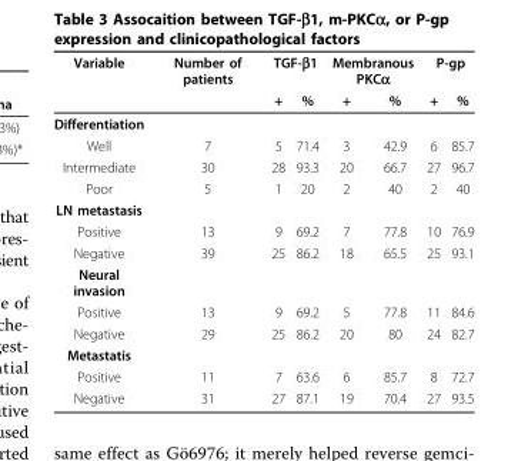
<table><thead><tr><td rowspan="2">Variable</td><td rowspan="2">Number of patients</td><td colspan="2">TGF-β1</td><td colspan="2">Membranous PKCα</td><td colspan="2">P-gp</td></tr><tr><td>+</td><td>%</td><td>+</td><td>%</td><td>+</td><td>%</td></tr></thead><tbody><tr><td colspan="8">Differentiation</td></tr><tr><td>Well</td><td>7</td><td>5</td><td>71.4</td><td>3</td><td>42.9</td><td>6</td><td>85.7</td></tr><tr><td>Intermediate</td><td>30</td><td>28</td><td>93.3</td><td>20</td><td>66.7</td><td>27</td><td>96.7</td></tr><tr><td>Poor</td><td>5</td><td>1</td><td>20</td><td>2</td><td>40</td><td>2</td><td>40</td></tr><tr><td colspan="8">LN metastasis</td></tr><tr><td>Positive</td><td>13</td><td>9</td><td>69.2</td><td>7</td><td>77.8</td><td>10</td><td>76.9</td></tr><tr><td>Negative</td><td>39</td><td>25</td><td>86.2</td><td>18</td><td>65.5</td><td>25</td><td>93.1</td></tr><tr><td colspan="8">Neural invasion</td></tr><tr><td>Positive</td><td>13</td><td>9</td><td>69.2</td><td>5</td><td>77.8</td><td>11</td><td>84.6</td></tr><tr><td>Negative</td><td>29</td><td>25</td><td>86.2</td><td>20</td><td>80</td><td>24</td><td>82.7</td></tr><tr><td colspan="8">Metastatis</td></tr><tr><td>Positive</td><td>11</td><td>7</td><td>63.6</td><td>6</td><td>85.7</td><td>8</td><td>72.7</td></tr><tr><td>Negative</td><td>31</td><td>27</td><td>87.1</td><td>19</td><td>70.4</td><td>27</td><td>93.5</td></tr></tbody></table>